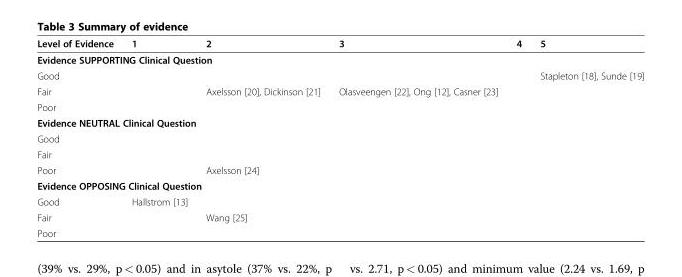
<table><thead><tr><td>Level of Evidence</td><td>1</td><td>2</td><td>3</td><td>4</td><td>5</td></tr></thead><tbody><tr><td colspan="6">Evidence SUPPORTING Clinical Question</td></tr><tr><td>Good</td><td></td><td></td><td></td><td></td><td>Stapleton [18], Sunde [19]</td></tr><tr><td>Fair</td><td></td><td>Axelsson [20], Dickinson [21]</td><td>Olasveengen [22], Ong [12], Casner [23]</td><td></td><td></td></tr><tr><td colspan="6">Poor</td></tr><tr><td colspan="6">Evidence NEUTRAL Clinical Question</td></tr><tr><td colspan="6">Good</td></tr><tr><td colspan="6">Fair</td></tr><tr><td>Poor</td><td></td><td>Axelsson [24]</td><td></td><td></td><td></td></tr><tr><td colspan="6">Evidence OPPOSING Clinical Question</td></tr><tr><td>Good</td><td>Hallstrom [13]</td><td></td><td></td><td></td><td></td></tr><tr><td>Fair</td><td></td><td>Wang [25]</td><td></td><td></td><td></td></tr><tr><td>Poor</td><td></td><td></td><td></td><td></td><td></td></tr></tbody></table>